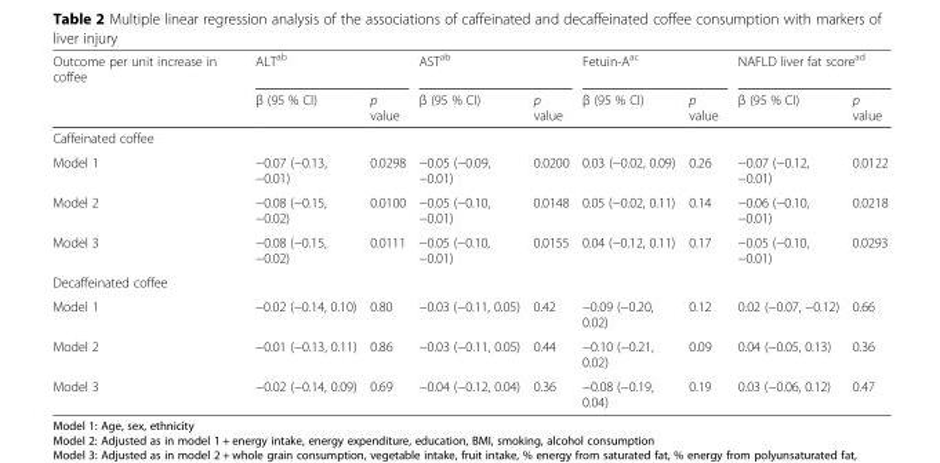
<table><thead><tr><td rowspan="2">Outcome per unit increase in coffee</td><td colspan="2">ALT<sup>ab</sup></td><td colspan="2">AST<sup>ab</sup></td><td colspan="2">Fetuin-A<sup>ac</sup></td><td colspan="2">NAFLD liver fat score<sup>ad</sup></td></tr><tr><td>β (95 % CI)</td><td>p value</td><td>β (95 % CI)</td><td>p value</td><td>β (95 % CI)</td><td>p value</td><td>β (95 % CI)</td><td>p value</td></tr></thead><tbody><tr><td colspan="9">Caffeinated coffee</td></tr><tr><td>Model 1</td><td>−0.07 (−0.13, −0.01)</td><td>0.0298</td><td>−0.05 (−0.09, −0.01)</td><td>0.0200</td><td>0.03 (−0.02, 0.09)</td><td>0.26</td><td>−0.07 (−0.12, −0.01)</td><td>0.0122</td></tr><tr><td>Model 2</td><td>−0.08 (−0.15, −0.02)</td><td>0.0100</td><td>−0.05 (−0.10, −0.01)</td><td>0.0148</td><td>0.05 (−0.02, 0.11)</td><td>0.14</td><td>−0.06 (−0.10, −0.01)</td><td>0.0218</td></tr><tr><td>Model 3</td><td>−0.08 (−0.15, −0.02)</td><td>0.0111</td><td>−0.05 (−0.10, −0.01)</td><td>0.0155</td><td>0.04 (−0.12, 0.11)</td><td>0.17</td><td>−0.05 (−0.10, −0.01)</td><td>0.0293</td></tr><tr><td colspan="9">Decaffeinated coffee</td></tr><tr><td>Model 1</td><td>−0.02 (−0.14, 0.10)</td><td>0.80</td><td>−0.03 (−0.11, 0.05)</td><td>0.42</td><td>−0.09 (−0.20, 0.02)</td><td>0.12</td><td>0.02 (−0.07, −0.12)</td><td>0.66</td></tr><tr><td>Model 2</td><td>−0.01 (−0.13, 0.11)</td><td>0.86</td><td>−0.03 (−0.11, 0.05)</td><td>0.44</td><td>−0.10 (−0.21, 0.02)</td><td>0.09</td><td>0.04 (−0.05, 0.13)</td><td>0.36</td></tr><tr><td>Model 3</td><td>−0.02 (−0.14, 0.09)</td><td>0.69</td><td>−0.04 (−0.12, 0.04)</td><td>0.36</td><td>−0.08 (−0.19, 0.04)</td><td>0.19</td><td>0.03 (−0.06, 0.12)</td><td>0.47</td></tr></tbody></table>